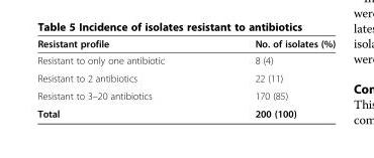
<table><thead><tr><td>Resistant profile</td><td>No. of isolates (%)</td></tr></thead><tbody><tr><td>Resistant to only one antibiotic</td><td>8 (4)</td></tr><tr><td>Resistant to 2 antibiotics</td><td>22 (11)</td></tr><tr><td>Resistant to 3–20 antibiotics</td><td>170 (85)</td></tr><tr><td>Total</td><td>200 (100)</td></tr></tbody></table>